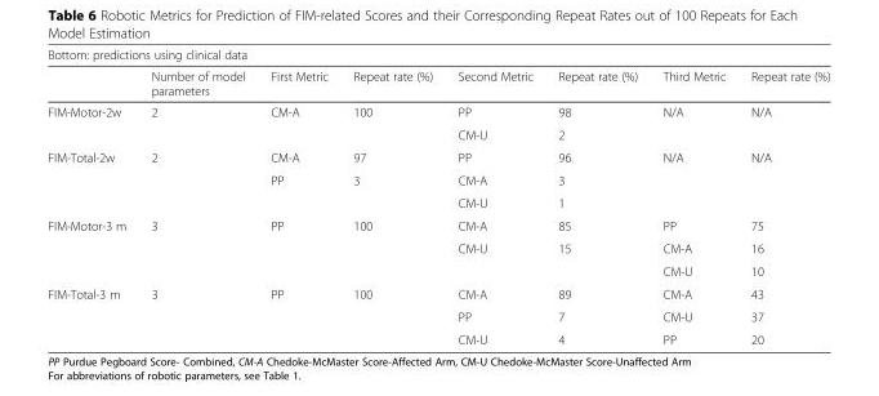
<table><thead><tr><td colspan="8">Bottom: predictions using clinical data</td></tr><tr><td></td><td>Number of model parameters</td><td>First Metric</td><td>Repeat rate (%)</td><td>Second Metric</td><td>Repeat rate (%)</td><td>Third Metric</td><td>Repeat rate (%)</td></tr></thead><tbody><tr><td rowspan="2">FIM-Motor-2w</td><td rowspan="2">2</td><td>CM-A</td><td>100</td><td>PP</td><td>98</td><td>N/A</td><td>N/A</td></tr><tr><td></td><td></td><td>CM-U</td><td>2</td><td></td><td></td></tr><tr><td rowspan="3">FIM-Total-2w</td><td rowspan="3">2</td><td>CM-A</td><td>97</td><td>PP</td><td>96</td><td>N/A</td><td>N/A</td></tr><tr><td>PP</td><td>3</td><td>CM-A</td><td>3</td><td></td><td></td></tr><tr><td></td><td></td><td>CM-U</td><td>1</td><td></td><td></td></tr><tr><td rowspan="3">FIM-Motor-3 m</td><td rowspan="3">3</td><td>PP</td><td>100</td><td>CM-A</td><td>85</td><td>PP</td><td>75</td></tr><tr><td></td><td></td><td>CM-U</td><td>15</td><td>CM-A</td><td>16</td></tr><tr><td></td><td></td><td></td><td></td><td>CM-U</td><td>10</td></tr><tr><td rowspan="3">FIM-Total-3 m</td><td rowspan="3">3</td><td>PP</td><td>100</td><td>CM-A</td><td>89</td><td>CM-A</td><td>43</td></tr><tr><td></td><td></td><td>PP</td><td>7</td><td>CM-U</td><td>37</td></tr><tr><td></td><td></td><td>CM-U</td><td>4</td><td>PP</td><td>20</td></tr></tbody></table>